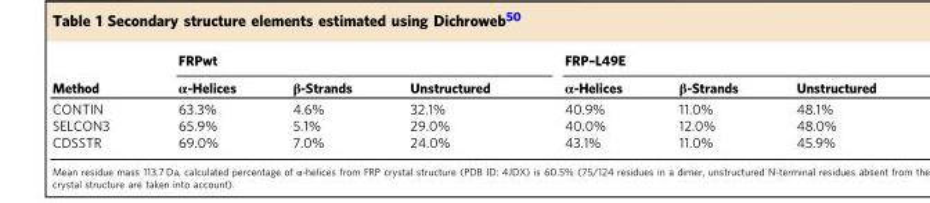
<table><thead><tr><td rowspan="2">Method</td><td colspan="3">FRPwt</td><td colspan="3">FRP–L49E</td></tr><tr><td>α-Helices</td><td>β-Strands</td><td>Unstructured</td><td>α-Helices</td><td>β-Strands</td><td>Unstructured</td></tr></thead><tbody><tr><td>CONTIN</td><td>63.3%</td><td>4.6%</td><td>32.1%</td><td>40.9%</td><td>11.0%</td><td>48.1%</td></tr><tr><td>SELCON3</td><td>65.9%</td><td>5.1%</td><td>29.0%</td><td>40.0%</td><td>12.0%</td><td>48.0%</td></tr><tr><td>CDSSTR</td><td>69.0%</td><td>7.0%</td><td>24.0%</td><td>43.1%</td><td>11.0%</td><td>45.9%</td></tr></tbody></table>